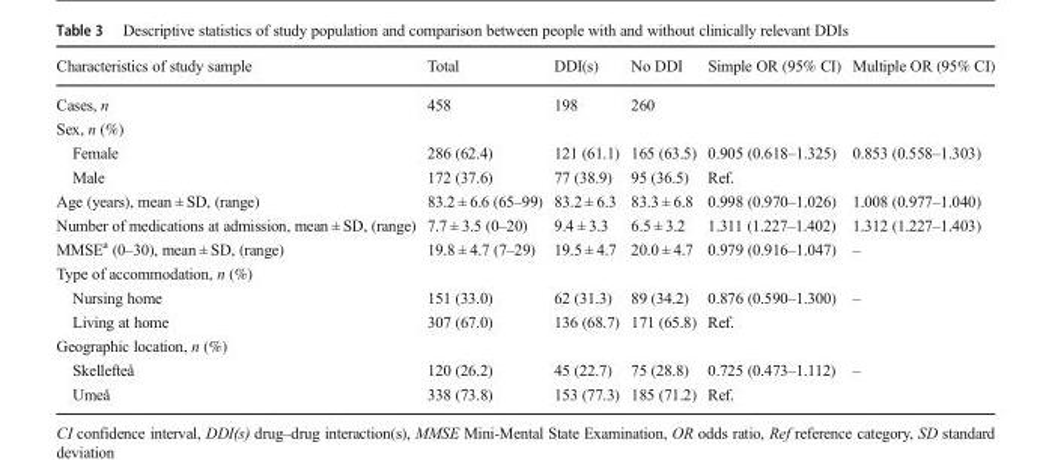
<table><thead><tr><td>Characteristics of study sample</td><td>Total</td><td>DDI(s)</td><td>No DDI</td><td>Simple OR (95% CI)</td><td>Multiple OR (95% CI)</td></tr></thead><tbody><tr><td>Cases, n</td><td>458</td><td>198</td><td>260</td><td></td><td></td></tr><tr><td colspan="6">Sex, n (%)</td></tr><tr><td>Female</td><td>286 (62.4)</td><td>121 (61.1)</td><td>165 (63.5)</td><td>0.905 (0.618–1.325)</td><td>0.853 (0.558–1.303)</td></tr><tr><td>Male</td><td>172 (37.6)</td><td>77 (38.9)</td><td>95 (36.5)</td><td>Ref.</td><td></td></tr><tr><td>Age (years), mean ± SD, (range)</td><td>83.2 ± 6.6 (65–99)</td><td>83.2 ± 6.3</td><td>83.3 ± 6.8</td><td>0.998 (0.970–1.026)</td><td>1.008 (0.977–1.040)</td></tr><tr><td>Number of medications at admission, mean ± SD, (range)</td><td>7.7 ± 3.5 (0–20)</td><td>9.4 ± 3.3</td><td>6.5 ± 3.2</td><td>1.311 (1.227–1.402)</td><td>1.312 (1.227–1.403)</td></tr><tr><td>MMSE<sup>a</sup> (0–30), mean ± SD, (range)</td><td>19.8 ± 4.7 (7–29)</td><td>19.5 ± 4.7</td><td>20.0 ± 4.7</td><td>0.979 (0.916–1.047)</td><td>–</td></tr><tr><td colspan="6">Type of accommodation, n (%)</td></tr><tr><td>Nursing home</td><td>151 (33.0)</td><td>62 (31.3)</td><td>89 (34.2)</td><td>0.876 (0.590–1.300)</td><td>–</td></tr><tr><td>Living at home</td><td>307 (67.0)</td><td>136 (68.7)</td><td>171 (65.8)</td><td>Ref.</td><td></td></tr><tr><td colspan="6">Geographic location, n (%)</td></tr><tr><td>Skellefteå</td><td>120 (26.2)</td><td>45 (22.7)</td><td>75 (28.8)</td><td>0.725 (0.473–1.112)</td><td>–</td></tr><tr><td>Umeå</td><td>338 (73.8)</td><td>153 (77.3)</td><td>185 (71.2)</td><td>Ref.</td><td></td></tr></tbody></table>